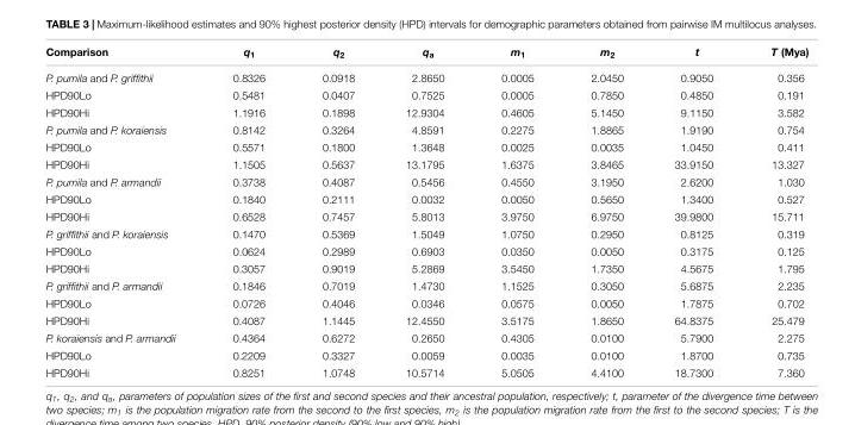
<table><thead><tr><td>Comparison</td><td>q<sub>1</sub></td><td>q<sub>2</sub></td><td>q<sub>a</sub></td><td>m<sub>1</sub></td><td>m<sub>2</sub></td><td>t</td><td>T (Mya)</td></tr></thead><tbody><tr><td>P. pumila and P. griffithii</td><td>0.8326</td><td>0.0918</td><td>2.8650</td><td>0.0005</td><td>2.0450</td><td>0.9050</td><td>0.356</td></tr><tr><td>HPD90Lo</td><td>0.5481</td><td>0.0407</td><td>0.7525</td><td>0.0005</td><td>0.7850</td><td>0.4850</td><td>0.191</td></tr><tr><td>HPD90Hi</td><td>1.1916</td><td>0.1898</td><td>12.9304</td><td>0.4605</td><td>5.1450</td><td>9.1150</td><td>3.582</td></tr><tr><td>P. pumila and P. koraiensis</td><td>0.8142</td><td>0.3264</td><td>4.8591</td><td>0.2275</td><td>1.8865</td><td>1.9190</td><td>0.754</td></tr><tr><td>HPD90Lo</td><td>0.5571</td><td>0.1800</td><td>1.3648</td><td>0.0025</td><td>0.0035</td><td>1.0450</td><td>0.411</td></tr><tr><td>HPD90Hi</td><td>1.1505</td><td>0.5637</td><td>13.1795</td><td>1.6375</td><td>3.8465</td><td>33.9150</td><td>13.327</td></tr><tr><td>P. pumila and P. armandii</td><td>0.3738</td><td>0.4087</td><td>0.5456</td><td>0.4550</td><td>3.1950</td><td>2.6200</td><td>1.030</td></tr><tr><td>HPD90Lo</td><td>0.1840</td><td>0.2111</td><td>0.0032</td><td>0.0050</td><td>0.5650</td><td>1.3400</td><td>0.527</td></tr><tr><td>HPD90Hi</td><td>0.6528</td><td>0.7457</td><td>5.8013</td><td>3.9750</td><td>6.9750</td><td>39.9800</td><td>15.711</td></tr><tr><td>P. griffithii and P. koraiensis</td><td>0.1470</td><td>0.5369</td><td>1.5049</td><td>1.0750</td><td>0.2950</td><td>0.8125</td><td>0.319</td></tr><tr><td>HPD90Lo</td><td>0.0624</td><td>0.2989</td><td>0.6903</td><td>0.0350</td><td>0.0050</td><td>0.3175</td><td>0.125</td></tr><tr><td>HPD90Hi</td><td>0.3057</td><td>0.9019</td><td>5.2869</td><td>3.5450</td><td>1.7350</td><td>4.5675</td><td>1.795</td></tr><tr><td>P. griffithii and P. armandii</td><td>0.1846</td><td>0.7019</td><td>1.4730</td><td>1.1525</td><td>0.3050</td><td>5.6875</td><td>2.235</td></tr><tr><td>HPD90Lo</td><td>0.0726</td><td>0.4046</td><td>0.0346</td><td>0.0575</td><td>0.0050</td><td>1.7875</td><td>0.702</td></tr><tr><td>HPD90Hi</td><td>0.4087</td><td>1.1445</td><td>12.4550</td><td>3.5175</td><td>1.8650</td><td>64.8375</td><td>25.479</td></tr><tr><td>P. koraiensis and P. armandii</td><td>0.4364</td><td>0.6272</td><td>0.2650</td><td>0.4305</td><td>0.0100</td><td>5.7900</td><td>2.275</td></tr><tr><td>HPD90Lo</td><td>0.2209</td><td>0.3327</td><td>0.0059</td><td>0.0035</td><td>0.0100</td><td>1.8700</td><td>0.735</td></tr><tr><td>HPD90Hi</td><td>0.8251</td><td>1.0748</td><td>10.5714</td><td>5.0505</td><td>4.4100</td><td>18.7300</td><td>7.360</td></tr></tbody></table>